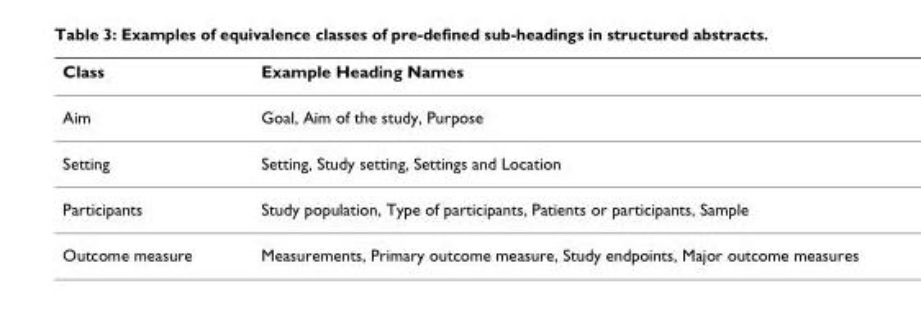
<table><thead><tr><td>Class</td><td>Example Heading Names</td></tr></thead><tbody><tr><td>Aim</td><td>Goal, Aim of the study, Purpose</td></tr><tr><td>Setting</td><td>Setting, Study setting, Settings and Location</td></tr><tr><td>Participants</td><td>Study population, Type of participants, Patients or participants, Sample</td></tr><tr><td>Outcome measure</td><td>Measurements, Primary outcome measure, Study endpoints, Major outcome measures</td></tr></tbody></table>